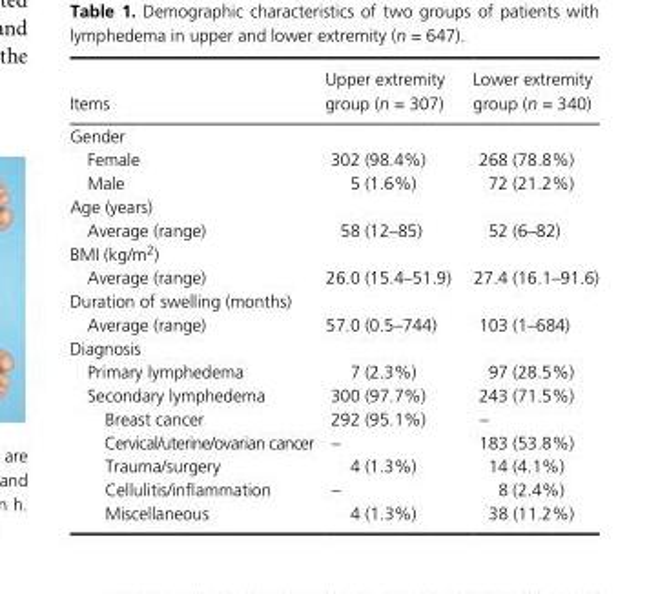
<table><thead><tr><td>Items</td><td>Upper extremity group (n = 307)</td><td>Lower extremity group (n = 340)</td></tr></thead><tbody><tr><td colspan="3">Gender</td></tr><tr><td>Female</td><td>302 (98.4%)</td><td>268 (78.8%)</td></tr><tr><td>Male</td><td>5 (1.6%)</td><td>72 (21.2%)</td></tr><tr><td colspan="3">Age (years)</td></tr><tr><td>Average (range)</td><td>58 (12–85)</td><td>52 (6–82)</td></tr><tr><td colspan="3">BMI (kg/m<sup>2</sup>)</td></tr><tr><td>Average (range)</td><td>26.0 (15.4–51.9)</td><td>27.4 (16.1–91.6)</td></tr><tr><td colspan="3">Duration of swelling (months)</td></tr><tr><td>Average (range)</td><td>57.0 (0.5–744)</td><td>103 (1–684)</td></tr><tr><td colspan="3">Diagnosis</td></tr><tr><td>Primary lymphedema</td><td>7 (2.3%)</td><td>97 (28.5%)</td></tr><tr><td>Secondary lymphedema</td><td>300 (97.7%)</td><td>243 (71.5%)</td></tr><tr><td>Breast cancer</td><td>292 (95.1%)</td><td>–</td></tr><tr><td>Cervical/uterine/ovarian cancer</td><td>–</td><td>183 (53.8%)</td></tr><tr><td>Trauma/surgery</td><td>4 (1.3%)</td><td>14 (4.1%)</td></tr><tr><td>Cellulitis/inflammation</td><td>–</td><td>8 (2.4%)</td></tr><tr><td>Miscellaneous</td><td>4 (1.3%)</td><td>38 (11.2%)</td></tr></tbody></table>